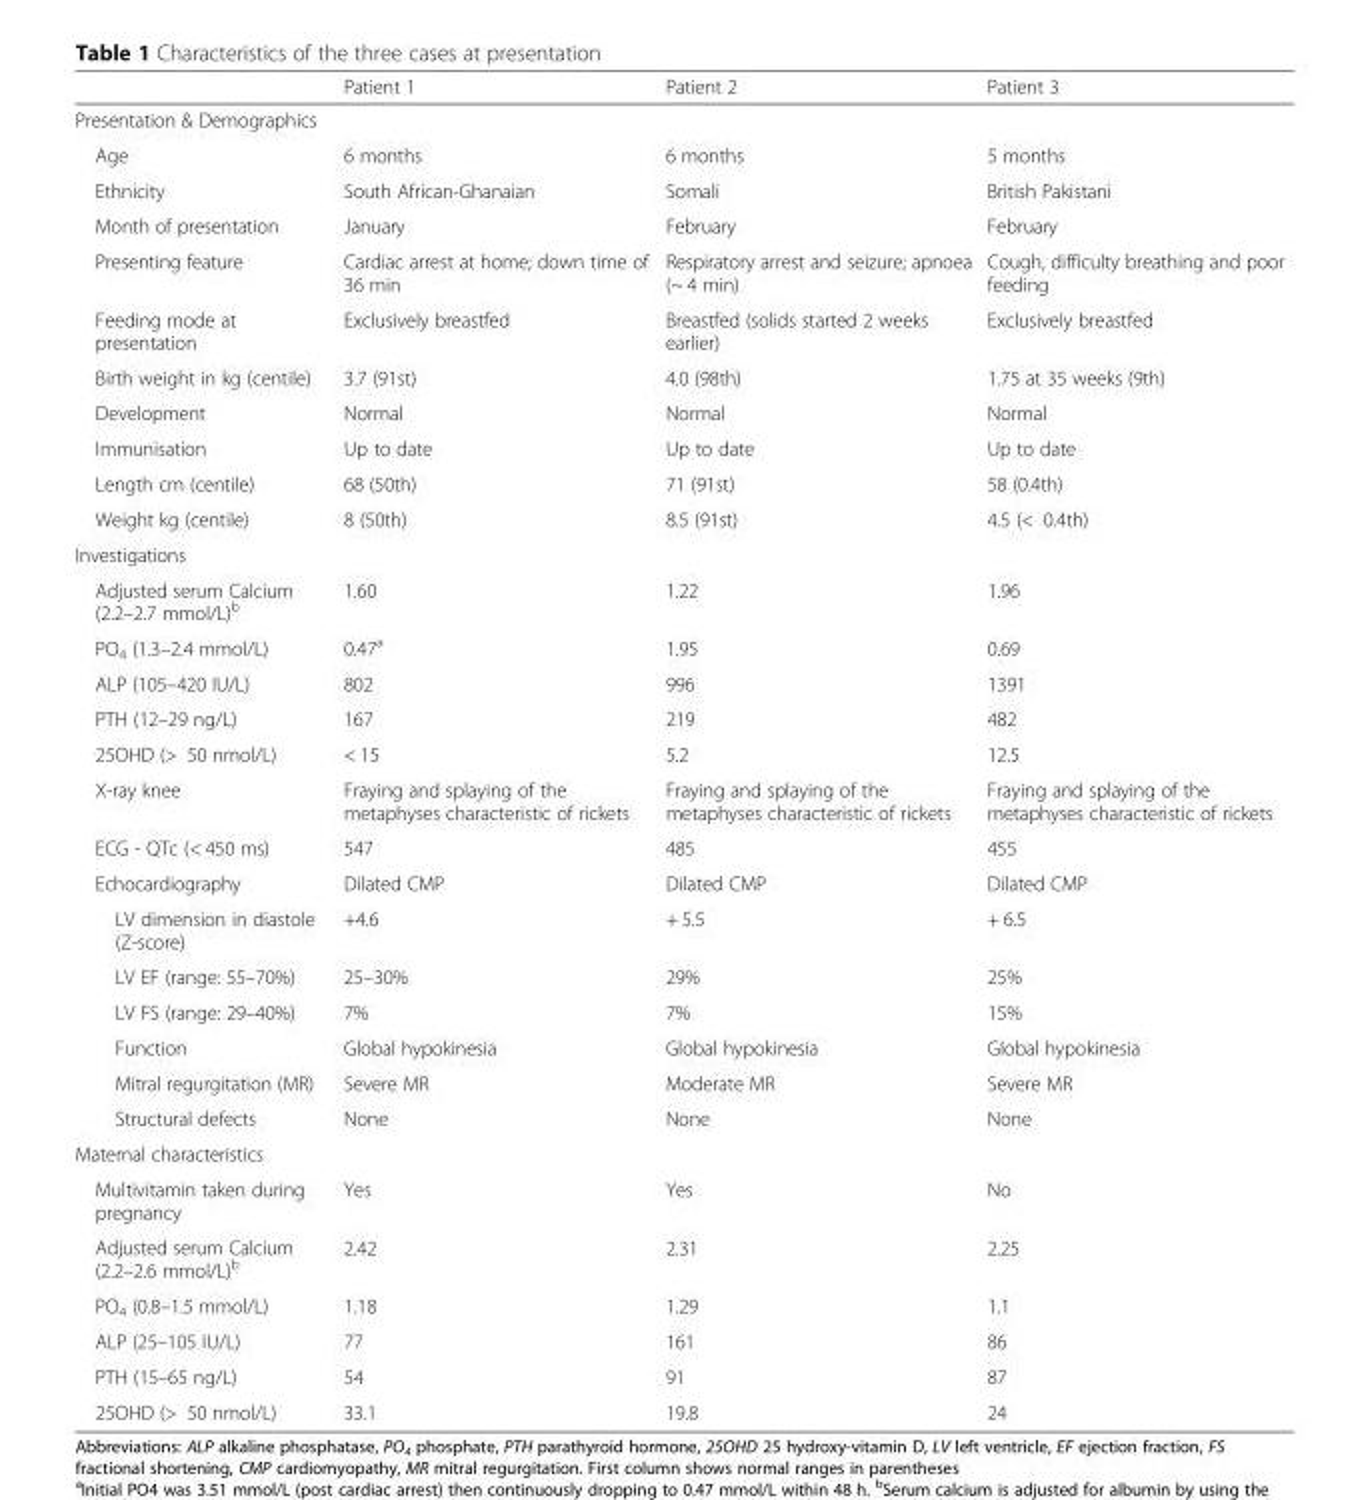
<table><thead><tr><td></td><td>Patient 1</td><td>Patient 2</td><td>Patient 3</td></tr></thead><tbody><tr><td colspan="4">Presentation &amp; Demographics</td></tr><tr><td>Age</td><td>6 months</td><td>6 months</td><td>5 months</td></tr><tr><td>Ethnicity</td><td>South African-Ghanaian</td><td>Somali</td><td>British Pakistani</td></tr><tr><td>Month of presentation</td><td>January</td><td>February</td><td>February</td></tr><tr><td>Presenting feature</td><td>Cardiac arrest at home; down time of 36 min</td><td>Respiratory arrest and seizure; apnoea (~ 4 min)</td><td>Cough, difficulty breathing and poor feeding</td></tr><tr><td>Feeding mode at presentation</td><td>Exclusively breastfed</td><td>Breastfed (solids started 2 weeks earlier)</td><td>Exclusively breastfed</td></tr><tr><td>Birth weight in kg (centile)</td><td>3.7 (91st)</td><td>4.0 (98th)</td><td>1.75 at 35 weeks (9th)</td></tr><tr><td>Development</td><td>Normal</td><td>Normal</td><td>Normal</td></tr><tr><td>Immunisation</td><td>Up to date</td><td>Up to date</td><td>Up to date</td></tr><tr><td>Length cm (centile)</td><td>68 (50th)</td><td>71 (91st)</td><td>58 (0.4th)</td></tr><tr><td>Weight kg (centile)</td><td>8 (50th)</td><td>8.5 (91st)</td><td>4.5 (&lt; 0.4th)</td></tr><tr><td colspan="4">Investigations</td></tr><tr><td>Adjusted serum Calcium (2.2–2.7 mmol/L)<sup>b</sup></td><td>1.60</td><td>1.22</td><td>1.96</td></tr><tr><td>PO<sub>4</sub> (1.3–2.4 mmol/L)</td><td>0.47<sup>a</sup></td><td>1.95</td><td>0.69</td></tr><tr><td>ALP (105–420 IU/L)</td><td>802</td><td>996</td><td>1391</td></tr><tr><td>PTH (12–29 ng/L)</td><td>167</td><td>219</td><td>482</td></tr><tr><td>25OHD (&gt; 50 nmol/L)</td><td>&lt; 15</td><td>5.2</td><td>12.5</td></tr><tr><td>X-ray knee</td><td>Fraying and splaying of the metaphyses characteristic of rickets</td><td>Fraying and splaying of the metaphyses characteristic of rickets</td><td>Fraying and splaying of the metaphyses characteristic of rickets</td></tr><tr><td>ECG - QTc (&lt; 450 ms)</td><td>547</td><td>485</td><td>455</td></tr><tr><td>Echocardiography</td><td>Dilated CMP</td><td>Dilated CMP</td><td>Dilated CMP</td></tr><tr><td>LV dimension in diastole (Z-score)</td><td>+4.6</td><td>+ 5.5</td><td>+ 6.5</td></tr><tr><td>LV EF (range: 55–70%)</td><td>25–30%</td><td>29%</td><td>25%</td></tr><tr><td>LV FS (range: 29–40%)</td><td>7%</td><td>7%</td><td>15%</td></tr><tr><td>Function</td><td>Global hypokinesia</td><td>Global hypokinesia</td><td>Global hypokinesia</td></tr><tr><td>Mitral regurgitation (MR)</td><td>Severe MR</td><td>Moderate MR</td><td>Severe MR</td></tr><tr><td>Structural defects</td><td>None</td><td>None</td><td>None</td></tr><tr><td colspan="4">Maternal characteristics</td></tr><tr><td>Multivitamin taken during pregnancy</td><td>Yes</td><td>Yes</td><td>No</td></tr><tr><td>Adjusted serum Calcium (2.2–2.6 mmol/L)<sup>b</sup></td><td>2.42</td><td>2.31</td><td>2.25</td></tr><tr><td>PO<sub>4</sub> (0.8–1.5 mmol/L)</td><td>1.18</td><td>1.29</td><td>1.1</td></tr><tr><td>ALP (25–105 IU/L)</td><td>77</td><td>161</td><td>86</td></tr><tr><td>PTH (15–65 ng/L)</td><td>54</td><td>91</td><td>87</td></tr><tr><td>25OHD (&gt; 50 nmol/L)</td><td>33.1</td><td>19.8</td><td>24</td></tr></tbody></table>